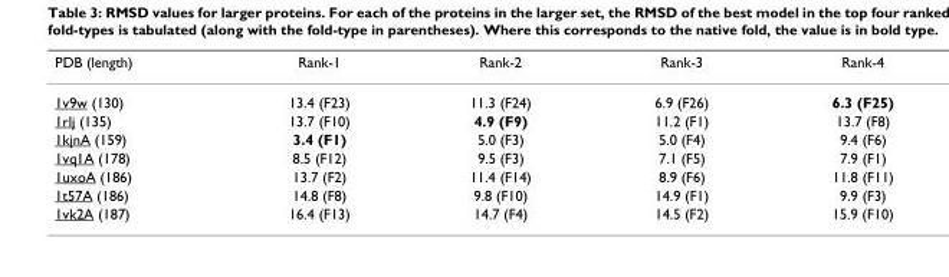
<table><thead><tr><td>PDB (length)</td><td>Rank-1</td><td>Rank-2</td><td>Rank-3</td><td>Rank-4</td></tr></thead><tbody><tr><td>1v9w (130)</td><td>13.4 (F23)</td><td>11.3 (F24)</td><td>6.9 (F26)</td><td>6.3 (F25)</td></tr><tr><td>1rlj (135)</td><td>13.7 (F10)</td><td>4.9 (F9)</td><td>11.2 (F1)</td><td>13.7 (F8)</td></tr><tr><td>1kjnA (159)</td><td>3.4 (F1)</td><td>5.0 (F3)</td><td>5.0 (F4)</td><td>9.4 (F6)</td></tr><tr><td>1vq1A (178)</td><td>8.5 (F12)</td><td>9.5 (F3)</td><td>7.1 (F5)</td><td>7.9 (F1)</td></tr><tr><td>1uxoA (186)</td><td>13.7 (F2)</td><td>11.4 (F14)</td><td>8.9 (F6)</td><td>11.8 (F11)</td></tr><tr><td>1t57A (186)</td><td>14.8 (F8)</td><td>9.8 (F10)</td><td>14.9 (F1)</td><td>9.9 (F3)</td></tr><tr><td>1vk2A (187)</td><td>16.4 (F13)</td><td>14.7 (F4)</td><td>14.5 (F2)</td><td>15.9 (F10)</td></tr></tbody></table>